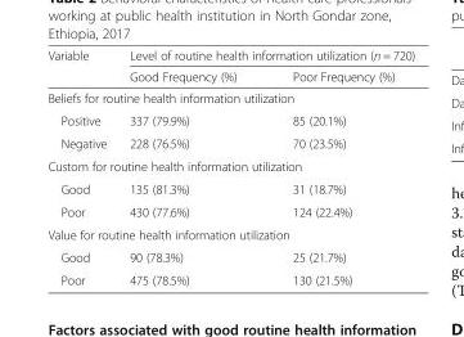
<table><thead><tr><td rowspan="2">Variable</td><td colspan="2">Level of routine health information utilization (n = 720)</td></tr><tr><td>Good Frequency (%)</td><td>Poor Frequency (%)</td></tr></thead><tbody><tr><td colspan="3">Beliefs for routine health information utilization</td></tr><tr><td>Positive</td><td>337 (79.9%)</td><td>85 (20.1%)</td></tr><tr><td>Negative</td><td>228 (76.5%)</td><td>70 (23.5%)</td></tr><tr><td colspan="3">Custom for routine health information utilization</td></tr><tr><td>Good</td><td>135 (81.3%)</td><td>31 (18.7%)</td></tr><tr><td>Poor</td><td>430 (77.6%)</td><td>124 (22.4%)</td></tr><tr><td colspan="3">Value for routine health information utilization</td></tr><tr><td>Good</td><td>90 (78.3%)</td><td>25 (21.7%)</td></tr><tr><td>Poor</td><td>475 (78.5%)</td><td>130 (21.5%)</td></tr></tbody></table>